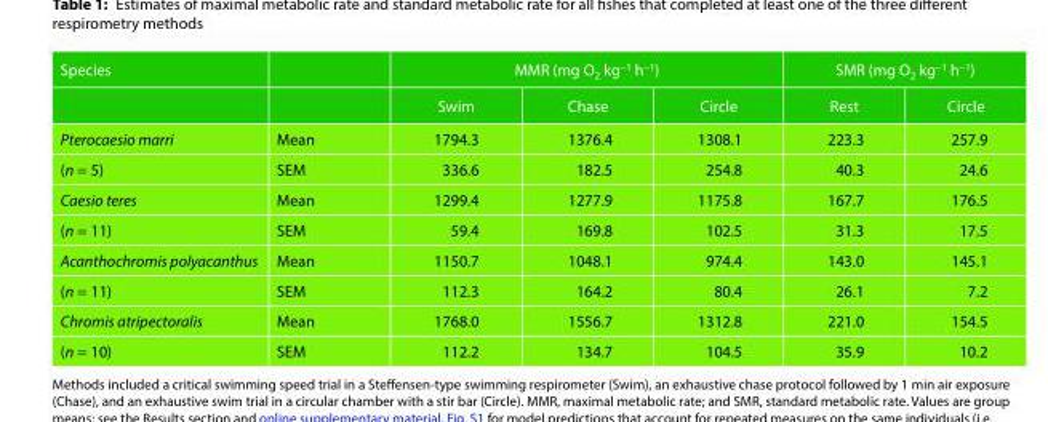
<table><thead><tr><td rowspan="2">Species</td><td rowspan="2"></td><td colspan="3">MMR (mg O<sub>2</sub> kg<sup>−1</sup> h<sup>−1</sup>)</td><td colspan="2">SMR (mg O<sub>2</sub> kg<sup>−1</sup> h<sup>−1</sup>)</td></tr><tr><td>Swim</td><td>Chase</td><td>Circle</td><td>Rest</td><td>Circle</td></tr></thead><tbody><tr><td>Pterocaesio marri</td><td>Mean</td><td>1794.3</td><td>1376.4</td><td>1308.1</td><td>223.3</td><td>257.9</td></tr><tr><td>(n = 5)</td><td>SEM</td><td>336.6</td><td>182.5</td><td>254.8</td><td>40.3</td><td>24.6</td></tr><tr><td>Caesio teres</td><td>Mean</td><td>1299.4</td><td>1277.9</td><td>1175.8</td><td>167.7</td><td>176.5</td></tr><tr><td>(n = 11)</td><td>SEM</td><td>59.4</td><td>169.8</td><td>102.5</td><td>31.3</td><td>17.5</td></tr><tr><td>Acanthochromis polyacanthus</td><td>Mean</td><td>1150.7</td><td>1048.1</td><td>974.4</td><td>143.0</td><td>145.1</td></tr><tr><td>(n = 11)</td><td>SEM</td><td>112.3</td><td>164.2</td><td>80.4</td><td>26.1</td><td>7.2</td></tr><tr><td>Chromis atripectoralis</td><td>Mean</td><td>1768.0</td><td>1556.7</td><td>1312.8</td><td>221.0</td><td>154.5</td></tr><tr><td>(n = 10)</td><td>SEM</td><td>112.2</td><td>134.7</td><td>104.5</td><td>35.9</td><td>10.2</td></tr></tbody></table>